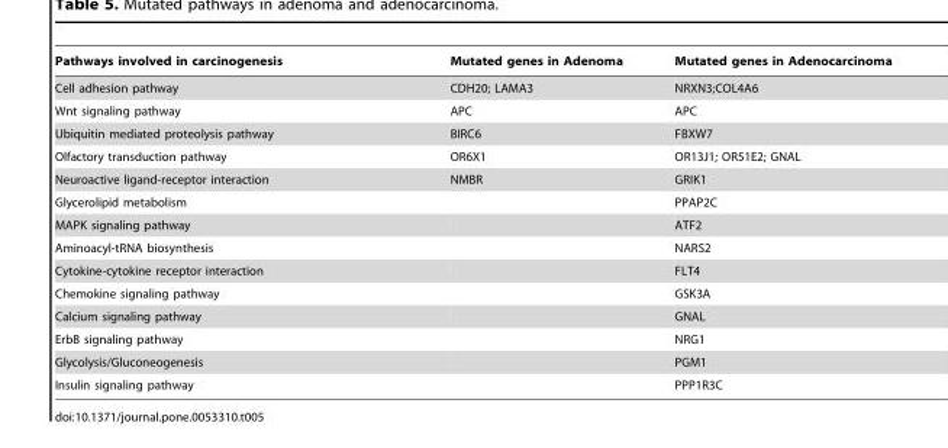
<table><thead><tr><td>Pathways involved in carcinogenesis</td><td>Mutated genes in Adenoma</td><td>Mutated genes in Adenocarcinoma</td></tr></thead><tbody><tr><td>Cell adhesion pathway</td><td>CDH20; LAMA3</td><td>NRXN3;COL4A6</td></tr><tr><td>Wnt signaling pathway</td><td>APC</td><td>APC</td></tr><tr><td>Ubiquitin mediated proteolysis pathway</td><td>BIRC6</td><td>FBXW7</td></tr><tr><td>Olfactory transduction pathway</td><td>OR6X1</td><td>OR13J1; OR51E2; GNAL</td></tr><tr><td>Neuroactive ligand-receptor interaction</td><td>NMBR</td><td>GRIK1</td></tr><tr><td>Glycerolipid metabolism</td><td></td><td>PPAP2C</td></tr><tr><td>MAPK signaling pathway</td><td></td><td>ATF2</td></tr><tr><td>Aminoacyl-tRNA biosynthesis</td><td></td><td>NARS2</td></tr><tr><td>Cytokine-cytokine receptor interaction</td><td></td><td>FLT4</td></tr><tr><td>Chemokine signaling pathway</td><td></td><td>GSK3A</td></tr><tr><td>Calcium signaling pathway</td><td></td><td>GNAL</td></tr><tr><td>ErbB signaling pathway</td><td></td><td>NRG1</td></tr><tr><td>Glycolysis/Gluconeogenesis</td><td></td><td>PGM1</td></tr><tr><td>Insulin signaling pathway</td><td></td><td>PPP1R3C</td></tr></tbody></table>